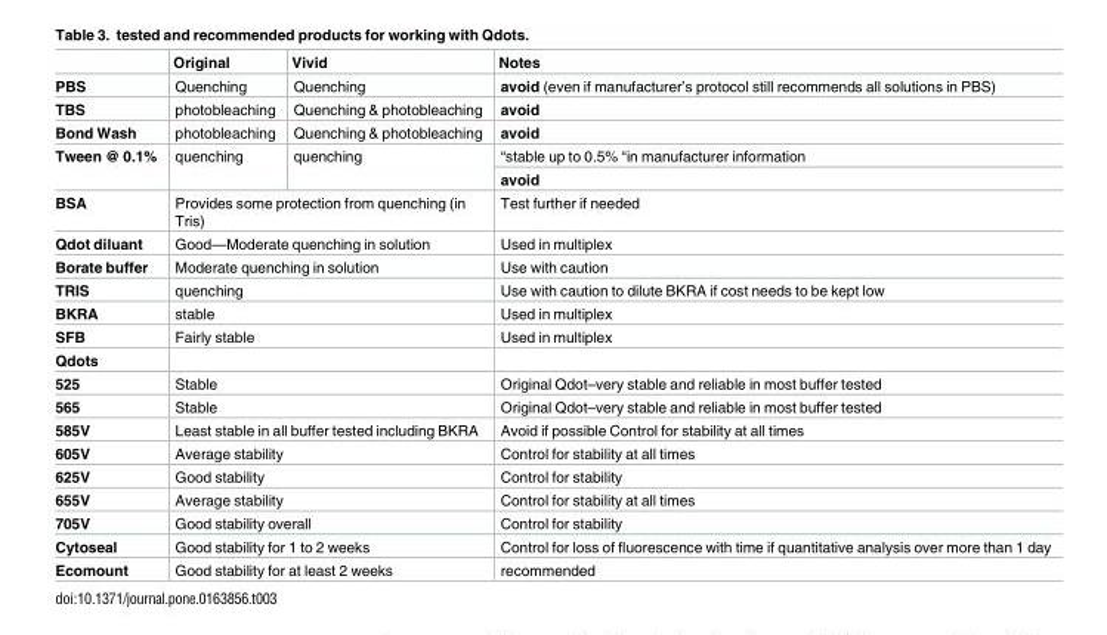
<table><thead><tr><td></td><td>Original</td><td>Vivid</td><td>Notes</td></tr></thead><tbody><tr><td>PBS</td><td>Quenching</td><td>Quenching</td><td>avoid (even if manufacturer’s protocol still recommends all solutions in PBS)</td></tr><tr><td>TBS</td><td>photobleaching</td><td>Quenching &amp; photobleaching</td><td>avoid</td></tr><tr><td>Bond Wash</td><td>photobleaching</td><td>Quenching &amp; photobleaching</td><td>avoid</td></tr><tr><td rowspan="2">Tween @ 0.1%</td><td rowspan="2">quenching</td><td rowspan="2">quenching</td><td>“stable up to 0.5% “in manufacturer information</td></tr><tr><td>avoid</td></tr><tr><td>BSA</td><td colspan="2">Provides some protection from quenching (in Tris)</td><td>Test further if needed</td></tr><tr><td>Qdot diluant</td><td colspan="2">Good—Moderate quenching in solution</td><td>Used in multiplex</td></tr><tr><td>Borate buffer</td><td colspan="2">Moderate quenching in solution</td><td>Use with caution</td></tr><tr><td>TRIS</td><td colspan="2">quenching</td><td>Use with caution to dilute BKRA if cost needs to be kept low</td></tr><tr><td>BKRA</td><td colspan="2">stable</td><td>Used in multiplex</td></tr><tr><td>SFB</td><td colspan="2">Fairly stable</td><td>Used in multiplex</td></tr><tr><td colspan="4">Qdots</td></tr><tr><td>525</td><td colspan="2">Stable</td><td>Original Qdot–very stable and reliable in most buffer tested</td></tr><tr><td>565</td><td colspan="2">Stable</td><td>Original Qdot–very stable and reliable in most buffer tested</td></tr><tr><td>585V</td><td colspan="2">Least stable in all buffer tested including BKRA</td><td>Avoid if possible Control for stability at all times</td></tr><tr><td>605V</td><td colspan="2">Average stability</td><td>Control for stability at all times</td></tr><tr><td>625V</td><td colspan="2">Good stability</td><td>Control for stability</td></tr><tr><td>655V</td><td colspan="2">Average stability</td><td>Control for stability at all times</td></tr><tr><td>705V</td><td colspan="2">Good stability overall</td><td>Control for stability</td></tr><tr><td>Cytoseal</td><td colspan="2">Good stability for 1 to 2 weeks</td><td>Control for loss of fluorescence with time if quantitative analysis over more than 1 day</td></tr><tr><td>Ecomount</td><td colspan="2">Good stability for at least 2 weeks</td><td>recommended</td></tr></tbody></table>